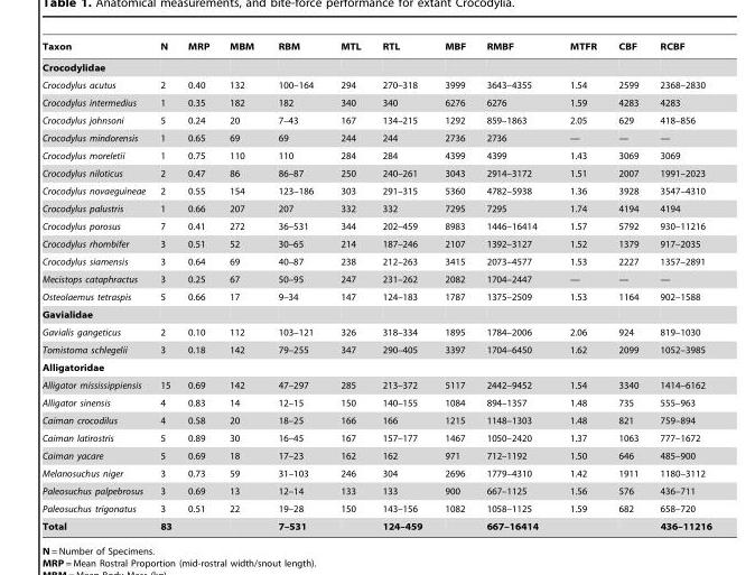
<table><thead><tr><td>Taxon</td><td>N</td><td>MRP</td><td>MBM</td><td>RBM</td><td>MTL</td><td>RTL</td><td>MBF</td><td>RMBF</td><td>MTFR</td><td>CBF</td><td>RCBF</td></tr></thead><tbody><tr><td colspan="12">Crocodylidae</td></tr><tr><td>Crocodylus acutus</td><td>2</td><td>0.40</td><td>132</td><td>100–164</td><td>294</td><td>270–318</td><td>3999</td><td>3643–4355</td><td>1.54</td><td>2599</td><td>2368–2830</td></tr><tr><td>Crocodylus intermedius</td><td>1</td><td>0.35</td><td>182</td><td>182</td><td>340</td><td>340</td><td>6276</td><td>6276</td><td>1.59</td><td>4283</td><td>4283</td></tr><tr><td>Crocodylus johnsoni</td><td>5</td><td>0.24</td><td>20</td><td>7–43</td><td>167</td><td>134–215</td><td>1292</td><td>859–1863</td><td>2.05</td><td>629</td><td>418–856</td></tr><tr><td>Crocodylus mindorensis</td><td>1</td><td>0.65</td><td>69</td><td>69</td><td>244</td><td>244</td><td>2736</td><td>2736</td><td>—</td><td>—</td><td>—</td></tr><tr><td>Crocodylus moreletii</td><td>1</td><td>0.75</td><td>110</td><td>110</td><td>284</td><td>284</td><td>4399</td><td>4399</td><td>1.43</td><td>3069</td><td>3069</td></tr><tr><td>Crocodylus niloticus</td><td>2</td><td>0.47</td><td>86</td><td>86–87</td><td>250</td><td>240–261</td><td>3043</td><td>2914–3172</td><td>1.51</td><td>2007</td><td>1991–2023</td></tr><tr><td>Crocodylus novaeguineae</td><td>2</td><td>0.55</td><td>154</td><td>123–186</td><td>303</td><td>291–315</td><td>5360</td><td>4782–5938</td><td>1.36</td><td>3928</td><td>3547–4310</td></tr><tr><td>Crocodylus palustris</td><td>1</td><td>0.66</td><td>207</td><td>207</td><td>332</td><td>332</td><td>7295</td><td>7295</td><td>1.74</td><td>4194</td><td>4194</td></tr><tr><td>Crocodylus porosus</td><td>7</td><td>0.41</td><td>272</td><td>36–531</td><td>344</td><td>202–459</td><td>8983</td><td>1446–16414</td><td>1.57</td><td>5792</td><td>930–11216</td></tr><tr><td>Crocodylus rhombifer</td><td>3</td><td>0.51</td><td>52</td><td>30–65</td><td>214</td><td>187–246</td><td>2107</td><td>1392–3127</td><td>1.52</td><td>1379</td><td>917–2035</td></tr><tr><td>Crocodylus siamensis</td><td>3</td><td>0.64</td><td>69</td><td>40–87</td><td>238</td><td>212–263</td><td>3415</td><td>2073–4577</td><td>1.53</td><td>2227</td><td>1357–2891</td></tr><tr><td>Mecistops cataphractus</td><td>3</td><td>0.25</td><td>67</td><td>50–95</td><td>247</td><td>231–262</td><td>2082</td><td>1704–2447</td><td>—</td><td>—</td><td>—</td></tr><tr><td>Osteolaemus tetraspis</td><td>5</td><td>0.66</td><td>17</td><td>9–34</td><td>147</td><td>124–183</td><td>1787</td><td>1375–2509</td><td>1.53</td><td>1164</td><td>902–1588</td></tr><tr><td colspan="12">Gavialidae</td></tr><tr><td>Gavialis gangeticus</td><td>2</td><td>0.10</td><td>112</td><td>103–121</td><td>326</td><td>318–334</td><td>1895</td><td>1784–2006</td><td>2.06</td><td>924</td><td>819–1030</td></tr><tr><td>Tomistoma schlegelii</td><td>3</td><td>0.18</td><td>142</td><td>79–255</td><td>347</td><td>290–405</td><td>3397</td><td>1704–6450</td><td>1.62</td><td>2099</td><td>1052–3985</td></tr><tr><td colspan="12">Alligatoridae</td></tr><tr><td>Alligator mississippiensis</td><td>15</td><td>0.69</td><td>142</td><td>47–297</td><td>285</td><td>213–372</td><td>5117</td><td>2442–9452</td><td>1.54</td><td>3340</td><td>1414–6162</td></tr><tr><td>Alligator sinensis</td><td>4</td><td>0.83</td><td>14</td><td>12–15</td><td>150</td><td>140–155</td><td>1084</td><td>894–1357</td><td>1.48</td><td>735</td><td>555–963</td></tr><tr><td>Caiman crocodilus</td><td>4</td><td>0.58</td><td>20</td><td>18–25</td><td>166</td><td>166</td><td>1215</td><td>1148–1303</td><td>1.48</td><td>821</td><td>759–894</td></tr><tr><td>Caiman latirostris</td><td>5</td><td>0.89</td><td>30</td><td>16–45</td><td>167</td><td>157–177</td><td>1467</td><td>1050–2420</td><td>1.37</td><td>1063</td><td>777–1672</td></tr><tr><td>Caiman yacare</td><td>5</td><td>0.69</td><td>18</td><td>17–23</td><td>162</td><td>162</td><td>971</td><td>712–1192</td><td>1.50</td><td>646</td><td>485–900</td></tr><tr><td>Melanosuchus niger</td><td>3</td><td>0.73</td><td>59</td><td>31–103</td><td>246</td><td>304</td><td>2696</td><td>1779–4310</td><td>1.42</td><td>1911</td><td>1180–3112</td></tr><tr><td>Paleosuchus palpebrosus</td><td>3</td><td>0.69</td><td>13</td><td>12–14</td><td>133</td><td>133</td><td>900</td><td>667–1125</td><td>1.56</td><td>576</td><td>436–711</td></tr><tr><td>Paleosuchus trigonatus</td><td>3</td><td>0.51</td><td>22</td><td>19–28</td><td>150</td><td>143–156</td><td>1082</td><td>1058–1125</td><td>1.59</td><td>682</td><td>658–720</td></tr><tr><td>Total</td><td>83</td><td></td><td></td><td>7–531</td><td></td><td>124–459</td><td></td><td>667–16414</td><td></td><td></td><td>436–11216</td></tr></tbody></table>